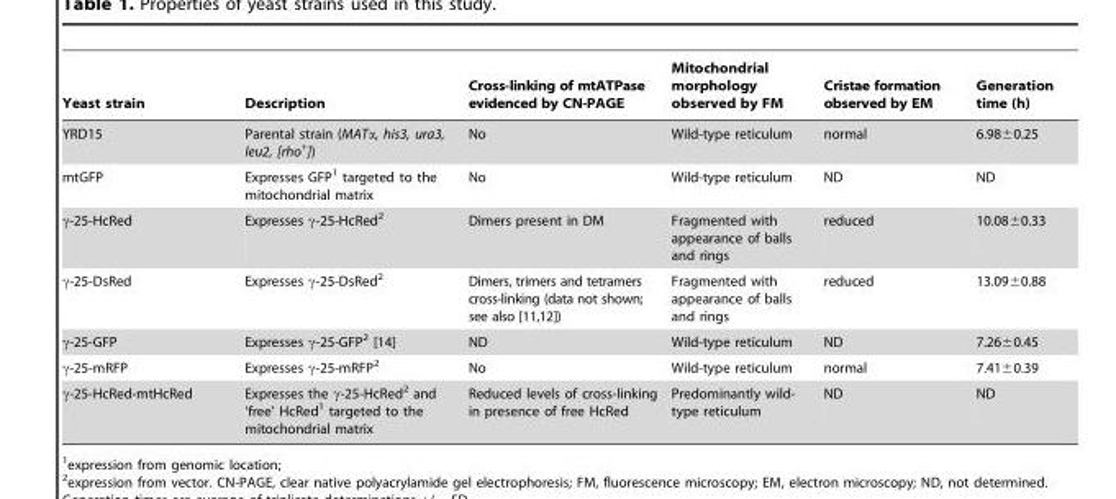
<table><thead><tr><td>Yeast strain</td><td>Description</td><td>Cross-linking of mtATPase evidenced by CN-PAGE</td><td>Mitochondrial morphology observed by FM</td><td>Cristae formation observed by EM</td><td>Generation time (h)</td></tr></thead><tbody><tr><td>YRD15</td><td>Parental strain (MATα, his3, ura3, leu2, [rho<sup>+</sup>])</td><td>No</td><td>Wild-type reticulum</td><td>normal</td><td>6.98±0.25</td></tr><tr><td>mtGFP</td><td>Expresses GFP<sup>1</sup> targeted to the mitochondrial matrix</td><td>No</td><td>Wild-type reticulum</td><td>ND</td><td>ND</td></tr><tr><td>γ-25-HcRed</td><td>Expresses γ-25-HcRed<sup>2</sup></td><td>Dimers present in DM</td><td>Fragmented with appearance of balls and rings</td><td>reduced</td><td>10.08±0.33</td></tr><tr><td>γ-25-DsRed</td><td>Expresses γ-25-DsRed<sup>2</sup></td><td>Dimers, trimers and tetramers cross-linking (data not shown; see also [11,12])</td><td>Fragmented with appearance of balls and rings</td><td>reduced</td><td>13.09±0.88</td></tr><tr><td>γ-25-GFP</td><td>Expresses γ-25-GFP<sup>2</sup> [14]</td><td>ND</td><td>Wild-type reticulum</td><td>ND</td><td>7.26±0.45</td></tr><tr><td>γ-25-mRFP</td><td>Expresses γ-25-mRFP<sup>2</sup></td><td>No</td><td>Wild-type reticulum</td><td>normal</td><td>7.41±0.39</td></tr><tr><td>γ-25-HcRed-mtHcRed</td><td>Expresses the γ-25-HcRed<sup>2</sup> and ‘free’ HcRed<sup>1</sup> targeted to the mitochondrial matrix</td><td>Reduced levels of cross-linking in presence of free HcRed</td><td>Predominantly wild- type reticulum</td><td>ND</td><td>ND</td></tr></tbody></table>